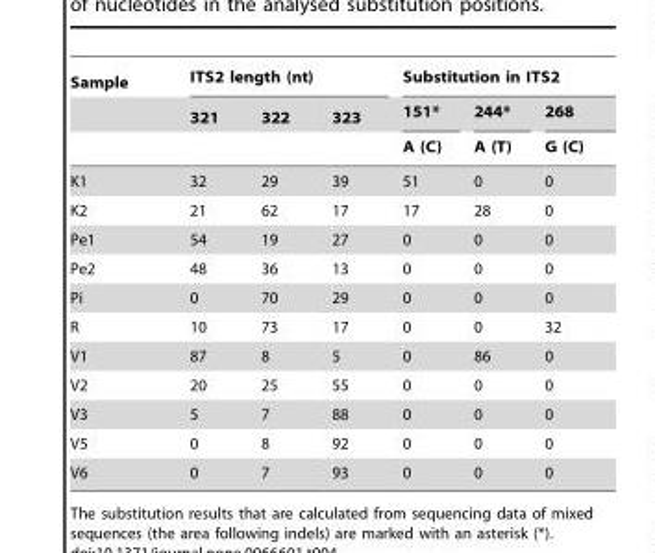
<table><thead><tr><td rowspan="3">Sample</td><td colspan="3">ITS2 length (nt)</td><td colspan="3">Substitution in ITS2</td></tr><tr><td rowspan="2">321</td><td rowspan="2">322</td><td rowspan="2">323</td><td rowspan="2">151* A (C)</td><td rowspan="2">244* A (T)</td><td rowspan="2">268 G (C)</td></tr><tr></tr></thead><tbody><tr><td>K1</td><td>32</td><td>29</td><td>39</td><td>51</td><td>0</td><td>0</td></tr><tr><td>K2</td><td>21</td><td>62</td><td>17</td><td>17</td><td>28</td><td>0</td></tr><tr><td>Pe1</td><td>54</td><td>19</td><td>27</td><td>0</td><td>0</td><td>0</td></tr><tr><td>Pe2</td><td>48</td><td>36</td><td>13</td><td>0</td><td>0</td><td>0</td></tr><tr><td>Pi</td><td>0</td><td>70</td><td>29</td><td>0</td><td>0</td><td>0</td></tr><tr><td>R</td><td>10</td><td>73</td><td>17</td><td>0</td><td>0</td><td>32</td></tr><tr><td>V1</td><td>87</td><td>8</td><td>5</td><td>0</td><td>86</td><td>0</td></tr><tr><td>V2</td><td>20</td><td>25</td><td>55</td><td>0</td><td>0</td><td>0</td></tr><tr><td>V3</td><td>5</td><td>7</td><td>88</td><td>0</td><td>0</td><td>0</td></tr><tr><td>V5</td><td>0</td><td>8</td><td>92</td><td>0</td><td>0</td><td>0</td></tr><tr><td>V6</td><td>0</td><td>7</td><td>93</td><td>0</td><td>0</td><td>0</td></tr></tbody></table>